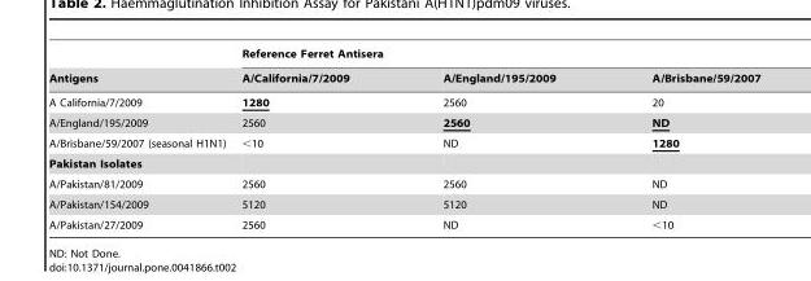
<table><thead><tr><td rowspan="2">Antigens</td><td colspan="3">Reference Ferret Antisera</td></tr><tr><td>A/California/7/2009</td><td>A/England/195/2009</td><td>A/Brisbane/59/2007</td></tr></thead><tbody><tr><td>A California/7/2009</td><td>1280</td><td>2560</td><td>20</td></tr><tr><td>A/England/195/2009</td><td>2560</td><td>2560</td><td>ND</td></tr><tr><td>A/Brisbane/59/2007 (seasonal H1N1)</td><td>&lt;10</td><td>ND</td><td>1280</td></tr><tr><td colspan="4">Pakistan Isolates</td></tr><tr><td>A/Pakistan/81/2009</td><td>2560</td><td>2560</td><td>ND</td></tr><tr><td>A/Pakistan/154/2009</td><td>5120</td><td>5120</td><td>ND</td></tr><tr><td>A/Pakistan/27/2009</td><td>2560</td><td>ND</td><td>&lt;10</td></tr></tbody></table>